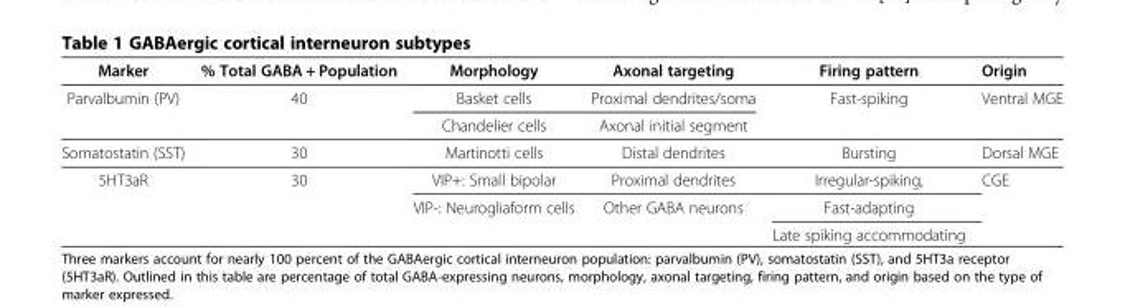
<table><thead><tr><td>Marker</td><td>% Total GABA + Population</td><td>Morphology</td><td>Axonal targeting</td><td>Firing pattern</td><td>Origin</td></tr></thead><tbody><tr><td rowspan="2">Parvalbumin (PV)</td><td rowspan="2">40</td><td>Basket cells</td><td>Proximal dendrites/soma</td><td rowspan="2">Fast-spiking</td><td rowspan="2">Ventral MGE</td></tr><tr><td>Chandelier cells</td><td>Axonal initial segment</td></tr><tr><td>Somatostatin (SST)</td><td>30</td><td>Martinotti cells</td><td>Distal dendrites</td><td>Bursting</td><td>Dorsal MGE</td></tr><tr><td rowspan="3">5HT3aR</td><td rowspan="3">30</td><td>VIP+: Small bipolar</td><td>Proximal dendrites</td><td>Irregular-spiking,</td><td rowspan="3">CGE</td></tr><tr><td rowspan="2">VIP-: Neurogliaform cells</td><td rowspan="2">Other GABA neurons</td><td>Fast-adapting</td></tr><tr><td>Late spiking accommodating</td></tr></tbody></table>